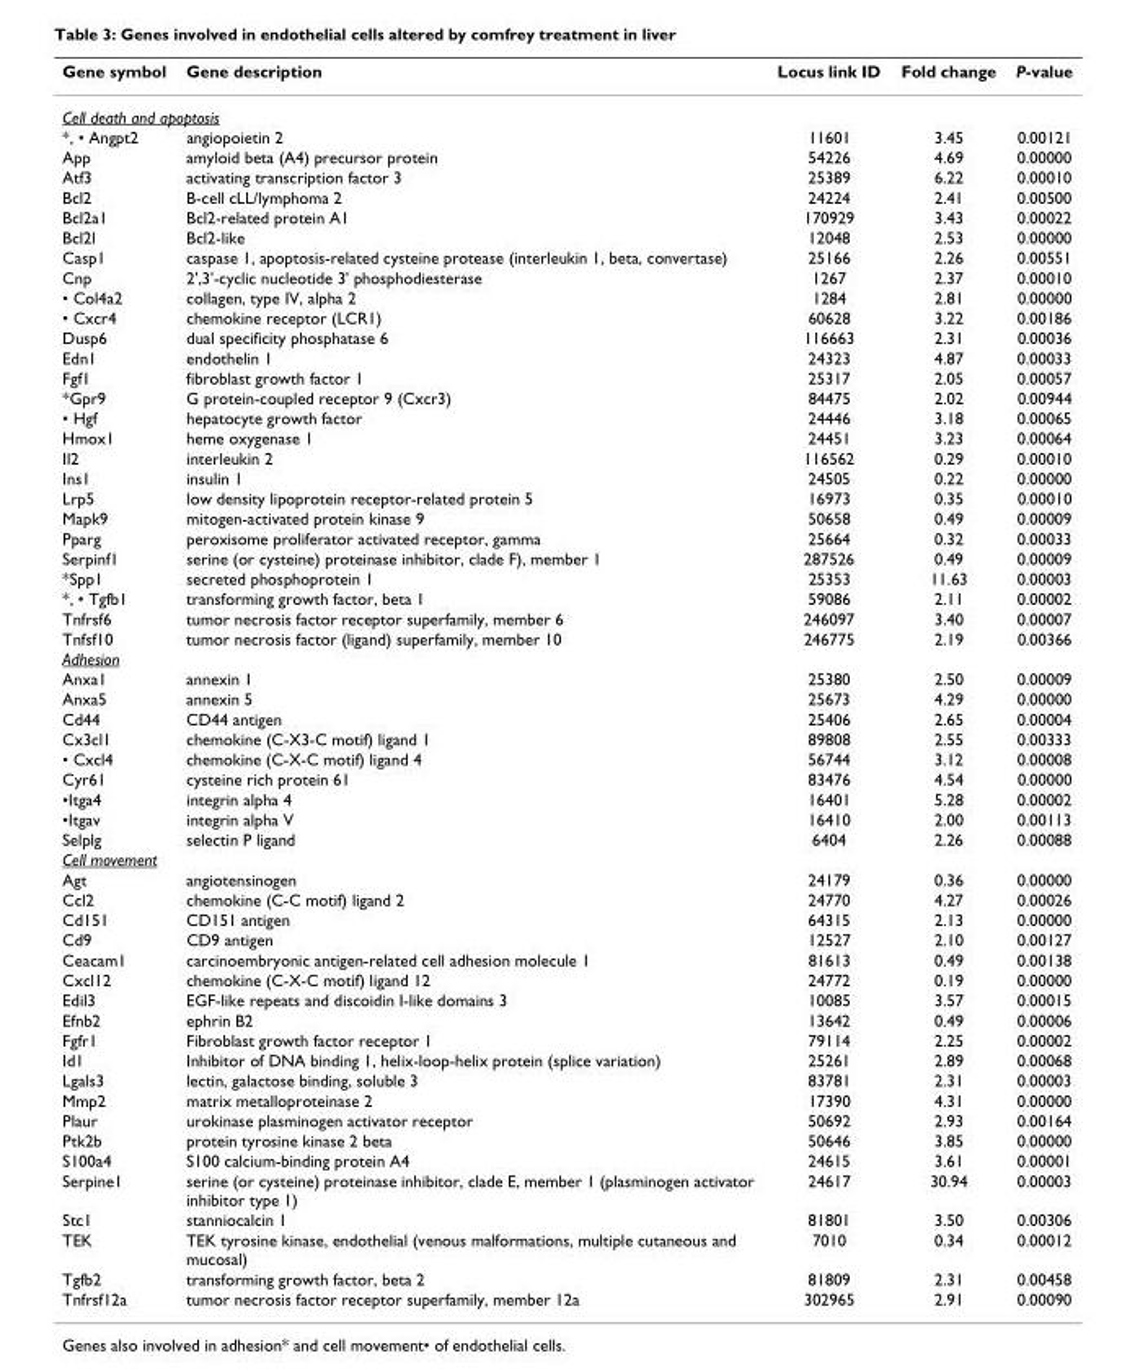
<table><thead><tr><td>Gene symbol</td><td>Gene description</td><td>Locus link ID</td><td>Fold change</td><td>P-value</td></tr></thead><tbody><tr><td colspan="5">Cell death and apoptosis</td></tr><tr><td>*, • Angpt2</td><td>angiopoietin 2</td><td>11601</td><td>3.45</td><td>0.00121</td></tr><tr><td>App</td><td>amyloid beta (A4) precursor protein</td><td>54226</td><td>4.69</td><td>0.00000</td></tr><tr><td>Atf3</td><td>activating transcription factor 3</td><td>25389</td><td>6.22</td><td>0.00010</td></tr><tr><td>Bcl2</td><td>B-cell cLL/lymphoma 2</td><td>24224</td><td>2.41</td><td>0.00500</td></tr><tr><td>Bcl2a1</td><td>Bcl2-related protein A1</td><td>170929</td><td>3.43</td><td>0.00022</td></tr><tr><td>Bcl2l</td><td>Bcl2-like</td><td>12048</td><td>2.53</td><td>0.00000</td></tr><tr><td>Casp1</td><td>caspase 1, apoptosis-related cysteine protease (interleukin 1, beta, convertase)</td><td>25166</td><td>2.26</td><td>0.00551</td></tr><tr><td>Cnp</td><td>2&#x27;,3&#x27;-cyclic nucleotide 3&#x27; phosphodiesterase</td><td>1267</td><td>2.37</td><td>0.00010</td></tr><tr><td>• Col4a2</td><td>collagen, type IV, alpha 2</td><td>1284</td><td>2.81</td><td>0.00000</td></tr><tr><td>• Cxcr4</td><td>chemokine receptor (LCR1)</td><td>60628</td><td>3.22</td><td>0.00186</td></tr><tr><td>Dusp6</td><td>dual specificity phosphatase 6</td><td>116663</td><td>2.31</td><td>0.00036</td></tr><tr><td>Edn1</td><td>endothelin 1</td><td>24323</td><td>4.87</td><td>0.00033</td></tr><tr><td>Fgf1</td><td>fibroblast growth factor 1</td><td>25317</td><td>2.05</td><td>0.00057</td></tr><tr><td>*Gpr9</td><td>G protein-coupled receptor 9 (Cxcr3)</td><td>84475</td><td>2.02</td><td>0.00944</td></tr><tr><td>• Hgf</td><td>hepatocyte growth factor</td><td>24446</td><td>3.18</td><td>0.00065</td></tr><tr><td>Hmox1</td><td>heme oxygenase 1</td><td>24451</td><td>3.23</td><td>0.00064</td></tr><tr><td>Il2</td><td>interleukin 2</td><td>116562</td><td>0.29</td><td>0.00010</td></tr><tr><td>Ins1</td><td>insulin 1</td><td>24505</td><td>0.22</td><td>0.00000</td></tr><tr><td>Lrp5</td><td>low density lipoprotein receptor-related protein 5</td><td>16973</td><td>0.35</td><td>0.00010</td></tr><tr><td>Mapk9</td><td>mitogen-activated protein kinase 9</td><td>50658</td><td>0.49</td><td>0.00009</td></tr><tr><td>Pparg</td><td>peroxisome proliferator activated receptor, gamma</td><td>25664</td><td>0.32</td><td>0.00033</td></tr><tr><td>Serpinf1</td><td>serine (or cysteine) proteinase inhibitor, clade F), member 1</td><td>287526</td><td>0.49</td><td>0.00009</td></tr><tr><td>*Spp1</td><td>secreted phosphoprotein 1</td><td>25353</td><td>11.63</td><td>0.00003</td></tr><tr><td>*, • Tgfb1</td><td>transforming growth factor, beta 1</td><td>59086</td><td>2.11</td><td>0.00002</td></tr><tr><td>Tnfrsf6</td><td>tumor necrosis factor receptor superfamily, member 6</td><td>246097</td><td>3.40</td><td>0.00007</td></tr><tr><td>Tnfsf10</td><td>tumor necrosis factor (ligand) superfamily, member 10</td><td>246775</td><td>2.19</td><td>0.00366</td></tr><tr><td colspan="5">Adhesion</td></tr><tr><td>Anxa1</td><td>annexin 1</td><td>25380</td><td>2.50</td><td>0.00009</td></tr><tr><td>Anxa5</td><td>annexin 5</td><td>25673</td><td>4.29</td><td>0.00000</td></tr><tr><td>Cd44</td><td>CD44 antigen</td><td>25406</td><td>2.65</td><td>0.00004</td></tr><tr><td>Cx3cl1</td><td>chemokine (C-X3-C motif) ligand 1</td><td>89808</td><td>2.55</td><td>0.00333</td></tr><tr><td>• Cxcl4</td><td>chemokine (C-X-C motif) ligand 4</td><td>56744</td><td>3.12</td><td>0.00008</td></tr><tr><td>Cyr61</td><td>cysteine rich protein 61</td><td>83476</td><td>4.54</td><td>0.00000</td></tr><tr><td>•Itga4</td><td>integrin alpha 4</td><td>16401</td><td>5.28</td><td>0.00002</td></tr><tr><td>•Itgav</td><td>integrin alpha V</td><td>16410</td><td>2.00</td><td>0.00113</td></tr><tr><td>Selplg</td><td>selectin P ligand</td><td>6404</td><td>2.26</td><td>0.00088</td></tr><tr><td colspan="5">Cell movement</td></tr><tr><td>Agt</td><td>angiotensinogen</td><td>24179</td><td>0.36</td><td>0.00000</td></tr><tr><td>Ccl2</td><td>chemokine (C-C motif) ligand 2</td><td>24770</td><td>4.27</td><td>0.00026</td></tr><tr><td>Cd151</td><td>CD151 antigen</td><td>64315</td><td>2.13</td><td>0.00000</td></tr><tr><td>Cd9</td><td>CD9 antigen</td><td>12527</td><td>2.10</td><td>0.00127</td></tr><tr><td>Ceacam1</td><td>carcinoembryonic antigen-related cell adhesion molecule 1</td><td>81613</td><td>0.49</td><td>0.00138</td></tr><tr><td>Cxcl12</td><td>chemokine (C-X-C motif) ligand 12</td><td>24772</td><td>0.19</td><td>0.00000</td></tr><tr><td>Edil3</td><td>EGF-like repeats and discoidin I-like domains 3</td><td>10085</td><td>3.57</td><td>0.00015</td></tr><tr><td>Efnb2</td><td>ephrin B2</td><td>13642</td><td>0.49</td><td>0.00006</td></tr><tr><td>Fgfr1</td><td>Fibroblast growth factor receptor 1</td><td>79114</td><td>2.25</td><td>0.00002</td></tr><tr><td>Id1</td><td>Inhibitor of DNA binding 1, helix-loop-helix protein (splice variation)</td><td>25261</td><td>2.89</td><td>0.00068</td></tr><tr><td>Lgals3</td><td>lectin, galactose binding, soluble 3</td><td>83781</td><td>2.31</td><td>0.00003</td></tr><tr><td>Mmp2</td><td>matrix metalloproteinase 2</td><td>17390</td><td>4.31</td><td>0.00000</td></tr><tr><td>Plaur</td><td>urokinase plasminogen activator receptor</td><td>50692</td><td>2.93</td><td>0.00164</td></tr><tr><td>Ptk2b</td><td>protein tyrosine kinase 2 beta</td><td>50646</td><td>3.85</td><td>0.00000</td></tr><tr><td>S100a4</td><td>S100 calcium-binding protein A4</td><td>24615</td><td>3.61</td><td>0.00001</td></tr><tr><td>Serpine1</td><td>serine (or cysteine) proteinase inhibitor, clade E, member 1 (plasminogen activator inhibitor type 1)</td><td>24617</td><td>30.94</td><td>0.00003</td></tr><tr><td>Stc1</td><td>stanniocalcin 1</td><td>81801</td><td>3.50</td><td>0.00306</td></tr><tr><td>TEK</td><td>TEK tyrosine kinase, endothelial (venous malformations, multiple cutaneous and mucosal)</td><td>7010</td><td>0.34</td><td>0.00012</td></tr><tr><td>Tgfb2</td><td>transforming growth factor, beta 2</td><td>81809</td><td>2.31</td><td>0.00458</td></tr><tr><td>Tnfrsf12a</td><td>tumor necrosis factor receptor superfamily, member 12a</td><td>302965</td><td>2.91</td><td>0.00090</td></tr></tbody></table>